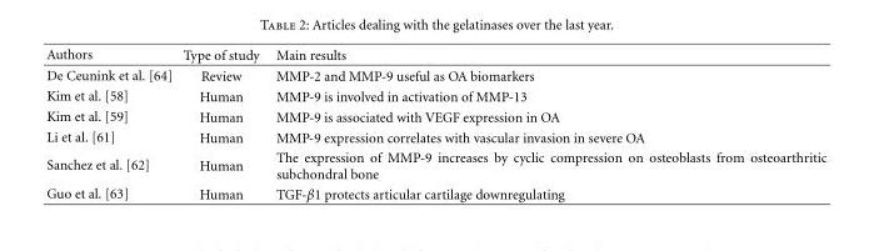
<table><thead><tr><td>Authors</td><td>Type of study</td><td>Main results</td></tr></thead><tbody><tr><td>De Ceunink et al. [64]</td><td>Review</td><td>MMP-2 and MMP-9 useful as OA biomarkers</td></tr><tr><td>Kim et al. [58]</td><td>Human</td><td>MMP-9 is involved in activation of MMP-13</td></tr><tr><td>Kim et al. [59]</td><td>Human</td><td>MMP-9 is associated with VEGF expression in OA</td></tr><tr><td>Li et al. [61]</td><td>Human</td><td>MMP-9 expression correlates with vascular invasion in severe OA</td></tr><tr><td>Sanchez et al. [62]</td><td>Human</td><td>The expression of MMP-9 increases by cyclic compression on osteoblasts from osteoarthritic subchondral bone</td></tr><tr><td>Guo et al. [63]</td><td>Human</td><td>TGF-β1 protects articular cartilage downregulating</td></tr></tbody></table>